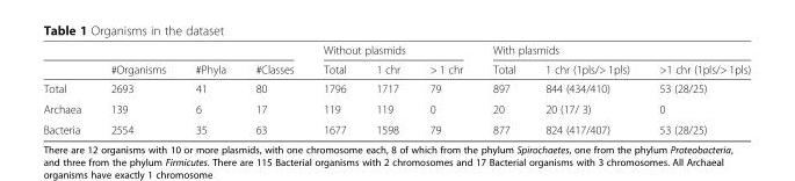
<table><thead><tr><td rowspan="2"></td><td rowspan="2">#Organisms</td><td rowspan="2">#Phyla</td><td rowspan="2">#Classes</td><td colspan="3">Without plasmids</td><td colspan="3">With plasmids</td></tr><tr><td>Total</td><td>1 chr</td><td>&gt; 1 chr</td><td>Total</td><td>1 chr (1pls/&gt; 1pls)</td><td>&gt;1 chr (1pls/&gt; 1pls)</td></tr></thead><tbody><tr><td>Total</td><td>2693</td><td>41</td><td>80</td><td>1796</td><td>1717</td><td>79</td><td>897</td><td>844 (434/410)</td><td>53 (28/25)</td></tr><tr><td>Archaea</td><td>139</td><td>6</td><td>17</td><td>119</td><td>119</td><td>0</td><td>20</td><td>20 (17/ 3)</td><td>0</td></tr><tr><td>Bacteria</td><td>2554</td><td>35</td><td>63</td><td>1677</td><td>1598</td><td>79</td><td>877</td><td>824 (417/407)</td><td>53 (28/25)</td></tr></tbody></table>